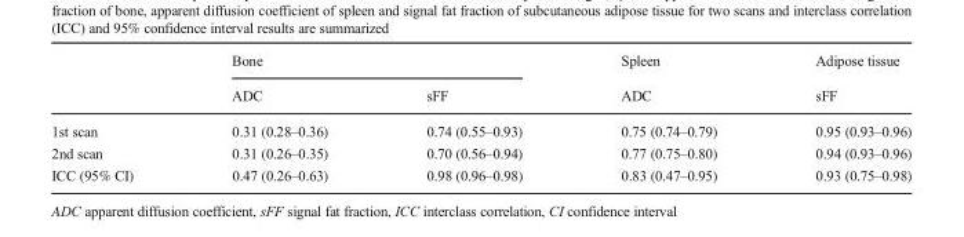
<table><thead><tr><td rowspan="2"></td><td colspan="2">Bone</td><td rowspan="2">Spleen ADC</td><td rowspan="2">Adipose tissue sFF</td></tr><tr><td>ADC</td><td>sFF</td></tr></thead><tbody><tr><td>1st scan</td><td>0.31 (0.28–0.36)</td><td>0.74 (0.55–0.93)</td><td>0.75 (0.74–0.79)</td><td>0.95 (0.93–0.96)</td></tr><tr><td>2nd scan</td><td>0.31 (0.26–0.35)</td><td>0.70 (0.56–0.94)</td><td>0.77 (0.75–0.80)</td><td>0.94 (0.93–0.96)</td></tr><tr><td>ICC (95% CI)</td><td>0.47 (0.26–0.63)</td><td>0.98 (0.96–0.98)</td><td>0.83 (0.47–0.95)</td><td>0.93 (0.75–0.98)</td></tr></tbody></table>